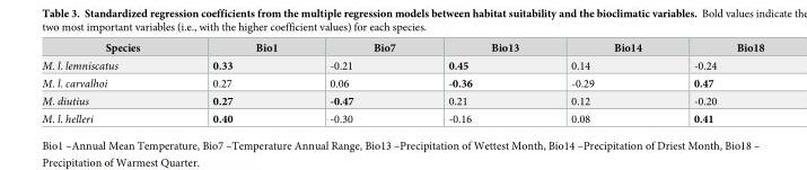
<table><thead><tr><td>Species</td><td>Bio1</td><td>Bio7</td><td>Bio13</td><td>Bio14</td><td>Bio18</td></tr></thead><tbody><tr><td>M. l. lemniscatus</td><td>0.33</td><td>-0.21</td><td>0.45</td><td>0.14</td><td>-0.24</td></tr><tr><td>M. l. carvalhoi</td><td>0.27</td><td>0.06</td><td>-0.36</td><td>-0.29</td><td>0.47</td></tr><tr><td>M. diutius</td><td>0.27</td><td>-0.47</td><td>0.21</td><td>0.12</td><td>-0.20</td></tr><tr><td>M. l. helleri</td><td>0.40</td><td>-0.30</td><td>-0.16</td><td>0.08</td><td>0.41</td></tr></tbody></table>